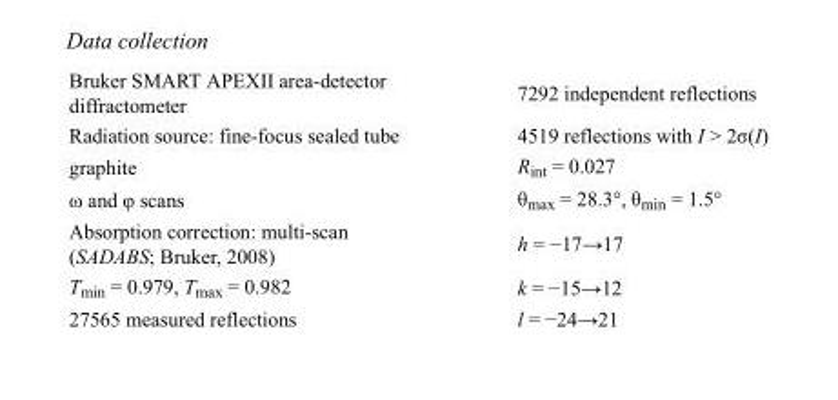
<table><tbody><tr><td>Bruker SMART APEXII area-detector diffractometer</td><td>7292 independent reflections</td></tr><tr><td>Radiation source: fine-focus sealed tube</td><td>4519 reflections with I &gt; 2σ(I)</td></tr><tr><td>graphite</td><td>R<sub>int</sub> = 0.027</td></tr><tr><td>ω and φ scans</td><td>θ<sub>max</sub> = 28.3°, θ<sub>min</sub> = 1.5°</td></tr><tr><td>Absorption correction: multi-scan (SADABS; Bruker, 2008)</td><td>h = −17→17</td></tr><tr><td>T<sub>min</sub> = 0.979, T<sub>max</sub> = 0.982</td><td>k = −15→12</td></tr><tr><td>27565 measured reflections</td><td>l = −24→21</td></tr></tbody></table>